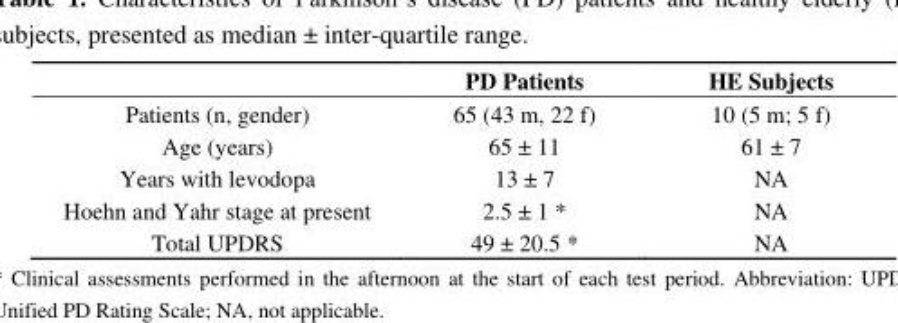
<table><thead><tr><td></td><td>PD Patients</td><td>HE Subjects</td></tr></thead><tbody><tr><td>Patients (n, gender)</td><td>65 (43 m, 22 f)</td><td>10 (5 m; 5 f)</td></tr><tr><td>Age (years)</td><td>65 ± 11</td><td>61 ± 7</td></tr><tr><td>Years with levodopa</td><td>13 ± 7</td><td>NA</td></tr><tr><td>Hoehn and Yahr stage at present</td><td>2.5 ± 1 *</td><td>NA</td></tr><tr><td>Total UPDRS</td><td>49 ± 20.5 *</td><td>NA</td></tr></tbody></table>